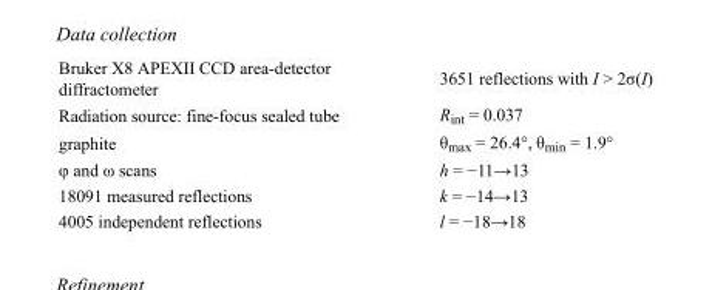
<table><tbody><tr><td>Bruker X8 APEXII CCD area-detector diffractometer</td><td>3651 reflections with I &gt; 2σ(I)</td></tr><tr><td>Radiation source: fine-focus sealed tube</td><td>R<sub>int</sub> = 0.037</td></tr><tr><td>graphite</td><td>θ<sub>max</sub> = 26.4°, θ<sub>min</sub> = 1.9°</td></tr><tr><td>φ and ω scans</td><td>h = −11→13</td></tr><tr><td>18091 measured reflections</td><td>k = −14→13</td></tr><tr><td>4005 independent reflections</td><td>l = −18→18</td></tr></tbody></table>